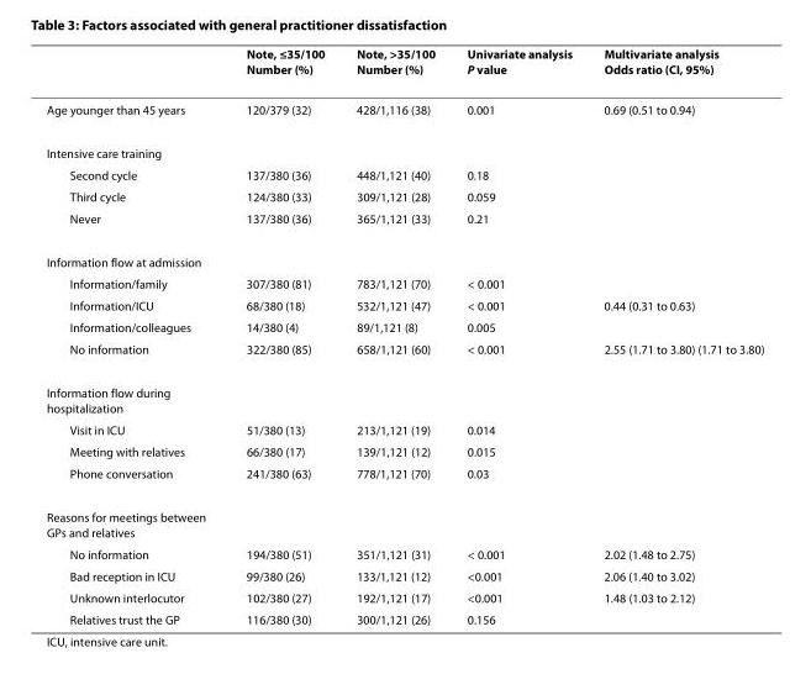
<table><thead><tr><td></td><td>Note, ≤35/100 Number (%)</td><td>Note, &gt;35/100 Number (%)</td><td>Univariate analysis P value</td><td>Multivariate analysis Odds ratio (CI, 95%)</td></tr></thead><tbody><tr><td>Age younger than 45 years</td><td>120/379 (32)</td><td>428/1,116 (38)</td><td>0.001</td><td>0.69 (0.51 to 0.94)</td></tr><tr><td colspan="5">Intensive care training</td></tr><tr><td>Second cycle</td><td>137/380 (36)</td><td>448/1,121 (40)</td><td>0.18</td><td></td></tr><tr><td>Third cycle</td><td>124/380 (33)</td><td>309/1,121 (28)</td><td>0.059</td><td></td></tr><tr><td>Never</td><td>137/380 (36)</td><td>365/1,121 (33)</td><td>0.21</td><td></td></tr><tr><td colspan="5">Information flow at admission</td></tr><tr><td>Information/family</td><td>307/380 (81)</td><td>783/1,121 (70)</td><td>&lt; 0.001</td><td></td></tr><tr><td>Information/ICU</td><td>68/380 (18)</td><td>532/1,121 (47)</td><td>&lt; 0.001</td><td>0.44 (0.31 to 0.63)</td></tr><tr><td>Information/colleagues</td><td>14/380 (4)</td><td>89/1,121 (8)</td><td>0.005</td><td></td></tr><tr><td>No information</td><td>322/380 (85)</td><td>658/1,121 (60)</td><td>&lt; 0.001</td><td>2.55 (1.71 to 3.80) (1.71 to 3.80)</td></tr><tr><td colspan="5">Information flow during hospitalization</td></tr><tr><td>Visit in ICU</td><td>51/380 (13)</td><td>213/1,121 (19)</td><td>0.014</td><td></td></tr><tr><td>Meeting with relatives</td><td>66/380 (17)</td><td>139/1,121 (12)</td><td>0.015</td><td></td></tr><tr><td>Phone conversation</td><td>241/380 (63)</td><td>778/1,121 (70)</td><td>0.03</td><td></td></tr><tr><td colspan="5">Reasons for meetings between GPs and relatives</td></tr><tr><td>No information</td><td>194/380 (51)</td><td>351/1,121 (31)</td><td>&lt; 0.001</td><td>2.02 (1.48 to 2.75)</td></tr><tr><td>Bad reception in ICU</td><td>99/380 (26)</td><td>133/1,121 (12)</td><td>&lt;0.001</td><td>2.06 (1.40 to 3.02)</td></tr><tr><td>Unknown interlocutor</td><td>102/380 (27)</td><td>192/1,121 (17)</td><td>&lt;0.001</td><td>1.48 (1.03 to 2.12)</td></tr><tr><td>Relatives trust the GP</td><td>116/380 (30)</td><td>300/1,121 (26)</td><td>0.156</td><td></td></tr></tbody></table>